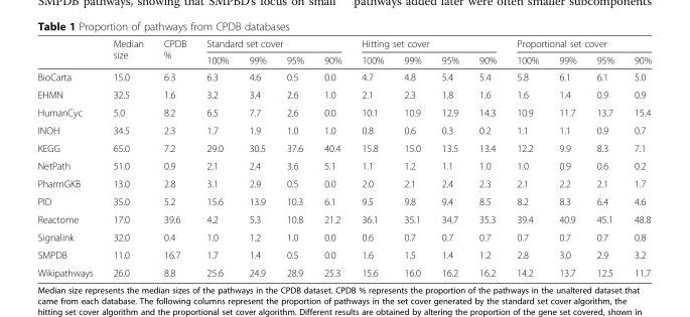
<table><thead><tr><td rowspan="2"></td><td rowspan="2">Median size</td><td rowspan="2">CPDB %</td><td colspan="4">Standard set cover</td><td colspan="4">Hitting set cover</td><td colspan="4">Proportional set cover</td></tr><tr><td>100%</td><td>99%</td><td>95%</td><td>90%</td><td>100%</td><td>99%</td><td>95%</td><td>90%</td><td>100%</td><td>99%</td><td>95%</td><td>90%</td></tr></thead><tbody><tr><td>BioCarta</td><td>15.0</td><td>6.3</td><td>6.3</td><td>4.6</td><td>0.5</td><td>0.0</td><td>4.7</td><td>4.8</td><td>5.4</td><td>5.4</td><td>5.8</td><td>6.1</td><td>6.1</td><td>5.0</td></tr><tr><td>EHMN</td><td>32.5</td><td>1.6</td><td>3.2</td><td>3.4</td><td>2.6</td><td>1.0</td><td>2.1</td><td>2.3</td><td>1.8</td><td>1.6</td><td>1.6</td><td>1.4</td><td>0.9</td><td>0.9</td></tr><tr><td>HumanCyc</td><td>5.0</td><td>8.2</td><td>6.5</td><td>7.7</td><td>2.6</td><td>0.0</td><td>10.1</td><td>10.9</td><td>12.9</td><td>14.3</td><td>10.9</td><td>11.7</td><td>13.7</td><td>15.4</td></tr><tr><td>INOH</td><td>34.5</td><td>2.3</td><td>1.7</td><td>1.9</td><td>1.0</td><td>1.0</td><td>0.8</td><td>0.6</td><td>0.3</td><td>0.2</td><td>1.1</td><td>1.1</td><td>0.9</td><td>0.7</td></tr><tr><td>KEGG</td><td>65.0</td><td>7.2</td><td>29.0</td><td>30.5</td><td>37.6</td><td>40.4</td><td>15.8</td><td>15.0</td><td>13.5</td><td>13.4</td><td>12.2</td><td>9.9</td><td>8.3</td><td>7.1</td></tr><tr><td>NetPath</td><td>51.0</td><td>0.9</td><td>2.1</td><td>2.4</td><td>3.6</td><td>5.1</td><td>1.1</td><td>1.2</td><td>1.1</td><td>1.0</td><td>1.0</td><td>0.9</td><td>0.6</td><td>0.2</td></tr><tr><td>PharmGKB</td><td>13.0</td><td>2.8</td><td>3.1</td><td>2.9</td><td>0.5</td><td>0.0</td><td>2.0</td><td>2.1</td><td>2.4</td><td>2.3</td><td>2.1</td><td>2.2</td><td>2.1</td><td>1.7</td></tr><tr><td>PID</td><td>35.0</td><td>5.2</td><td>15.6</td><td>13.9</td><td>10.3</td><td>6.1</td><td>9.5</td><td>9.8</td><td>9.4</td><td>8.5</td><td>8.2</td><td>8.3</td><td>6.4</td><td>4.6</td></tr><tr><td>Reactome</td><td>17.0</td><td>39.6</td><td>4.2</td><td>5.3</td><td>10.8</td><td>21.2</td><td>36.1</td><td>35.1</td><td>34.7</td><td>35.3</td><td>39.4</td><td>40.9</td><td>45.1</td><td>48.8</td></tr><tr><td>Signalink</td><td>32.0</td><td>0.4</td><td>1.0</td><td>1.2</td><td>1.0</td><td>0.0</td><td>0.6</td><td>0.7</td><td>0.7</td><td>0.7</td><td>0.7</td><td>0.7</td><td>0.7</td><td>0.8</td></tr><tr><td>SMPDB</td><td>11.0</td><td>16.7</td><td>1.7</td><td>1.4</td><td>0.5</td><td>0.0</td><td>1.6</td><td>1.5</td><td>1.4</td><td>1.2</td><td>2.8</td><td>3.0</td><td>2.9</td><td>3.2</td></tr><tr><td>Wikipathways</td><td>26.0</td><td>8.8</td><td>25.6</td><td>24.9</td><td>28.9</td><td>25.3</td><td>15.6</td><td>16.0</td><td>16.2</td><td>16.2</td><td>14.2</td><td>13.7</td><td>12.5</td><td>11.7</td></tr></tbody></table>